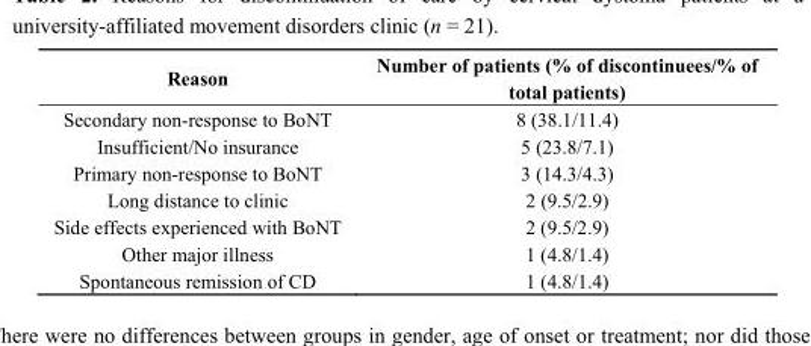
<table><thead><tr><td>Reason</td><td>Number of patients (% of discontinuees/% of total patients)</td></tr></thead><tbody><tr><td>Secondary non-response to BoNT</td><td>8 (38.1/11.4)</td></tr><tr><td>Insufficient/No insurance</td><td>5 (23.8/7.1)</td></tr><tr><td>Primary non-response to BoNT</td><td>3 (14.3/4.3)</td></tr><tr><td>Long distance to clinic</td><td>2 (9.5/2.9)</td></tr><tr><td>Side effects experienced with BoNT</td><td>2 (9.5/2.9)</td></tr><tr><td>Other major illness</td><td>1 (4.8/1.4)</td></tr><tr><td>Spontaneous remission of CD</td><td>1 (4.8/1.4)</td></tr></tbody></table>